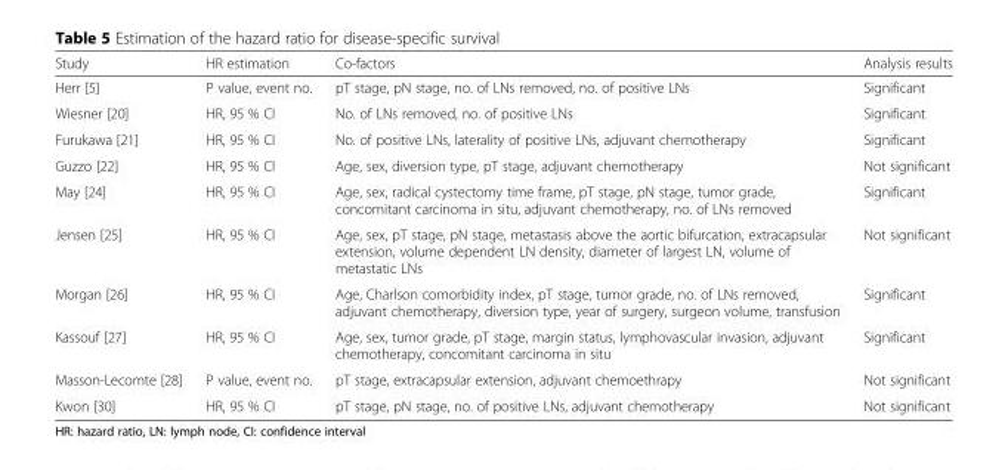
<table><thead><tr><td>Study</td><td>HR estimation</td><td>Co-factors</td><td>Analysis results</td></tr></thead><tbody><tr><td>Herr [5]</td><td>P value, event no.</td><td>pT stage, pN stage, no. of LNs removed, no. of positive LNs</td><td>Significant</td></tr><tr><td>Wiesner [20]</td><td>HR, 95 % CI</td><td>No. of LNs removed, no. of positive LNs</td><td>Significant</td></tr><tr><td>Furukawa [21]</td><td>HR, 95 % CI</td><td>No. of positive LNs, laterality of positive LNs, adjuvant chemotherapy</td><td>Significant</td></tr><tr><td>Guzzo [22]</td><td>HR, 95 % CI</td><td>Age, sex, diversion type, pT stage, adjuvant chemotherapy</td><td>Not significant</td></tr><tr><td>May [24]</td><td>HR, 95 % CI</td><td>Age, sex, radical cystectomy time frame, pT stage, pN stage, tumor grade, concomitant carcinoma in situ, adjuvant chemotherapy, no. of LNs removed</td><td>Significant</td></tr><tr><td>Jensen [25]</td><td>HR, 95 % CI</td><td>Age, sex, pT stage, pN stage, metastasis above the aortic bifurcation, extracapsular extension, volume dependent LN density, diameter of largest LN, volume of metastatic LNs</td><td>Not significant</td></tr><tr><td>Morgan [26]</td><td>HR, 95 % CI</td><td>Age, Charlson comorbidity index, pT stage, tumor grade, no. of LNs removed, adjuvant chemotherapy, diversion type, year of surgery, surgeon volume, transfusion</td><td>Significant</td></tr><tr><td>Kassouf [27]</td><td>HR, 95 % CI</td><td>Age, sex, tumor grade, pT stage, margin status, lymphovascular invasion, adjuvant chemotherapy, concomitant carcinoma in situ</td><td>Significant</td></tr><tr><td>Masson-Lecomte [28]</td><td>P value, event no.</td><td>pT stage, extracapsular extension, adjuvant chemoethrapy</td><td>Not significant</td></tr><tr><td>Kwon [30]</td><td>HR, 95 % CI</td><td>pT stage, pN stage, no. of positive LNs, adjuvant chemotherapy</td><td>Not significant</td></tr></tbody></table>